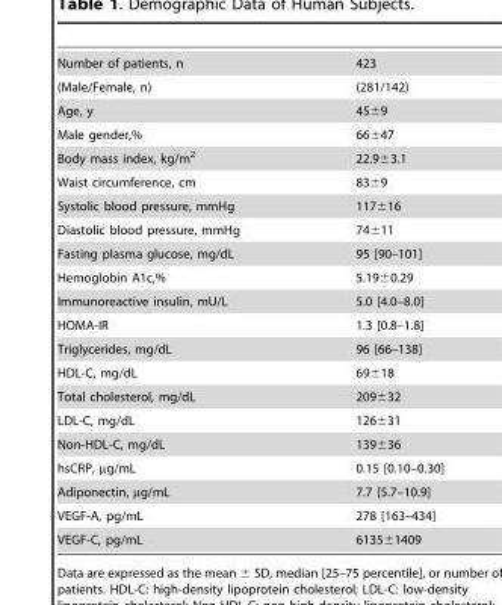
<table><tbody><tr><td>Number of patients, n</td><td>423</td></tr><tr><td>(Male/Female, n)</td><td>(281/142)</td></tr><tr><td>Age, y</td><td>45±9</td></tr><tr><td>Male gender,%</td><td>66±47</td></tr><tr><td>Body mass index, kg/m<sup>2</sup></td><td>22.9±3.1</td></tr><tr><td>Waist circumference, cm</td><td>83±9</td></tr><tr><td>Systolic blood pressure, mmHg</td><td>117±16</td></tr><tr><td>Diastolic blood pressure, mmHg</td><td>74±11</td></tr><tr><td>Fasting plasma glucose, mg/dL</td><td>95 [90–101]</td></tr><tr><td>Hemoglobin A1c,%</td><td>5.19±0.29</td></tr><tr><td>Immunoreactive insulin, mU/L</td><td>5.0 [4.0–8.0]</td></tr><tr><td>HOMA-IR</td><td>1.3 [0.8–1.8]</td></tr><tr><td>Triglycerides, mg/dL</td><td>96 [66–138]</td></tr><tr><td>HDL-C, mg/dL</td><td>69±18</td></tr><tr><td>Total cholesterol, mg/dL</td><td>209±32</td></tr><tr><td>LDL-C, mg/dL</td><td>126±31</td></tr><tr><td>Non-HDL-C, mg/dL</td><td>139±36</td></tr><tr><td>hsCRP, µg/mL</td><td>0.15 [0.10–0.30]</td></tr><tr><td>Adiponectin, µg/mL</td><td>7.7 [5.7–10.9]</td></tr><tr><td>VEGF-A, pg/mL</td><td>278 [163–434]</td></tr><tr><td>VEGF-C, pg/mL</td><td>6135±1409</td></tr></tbody></table>